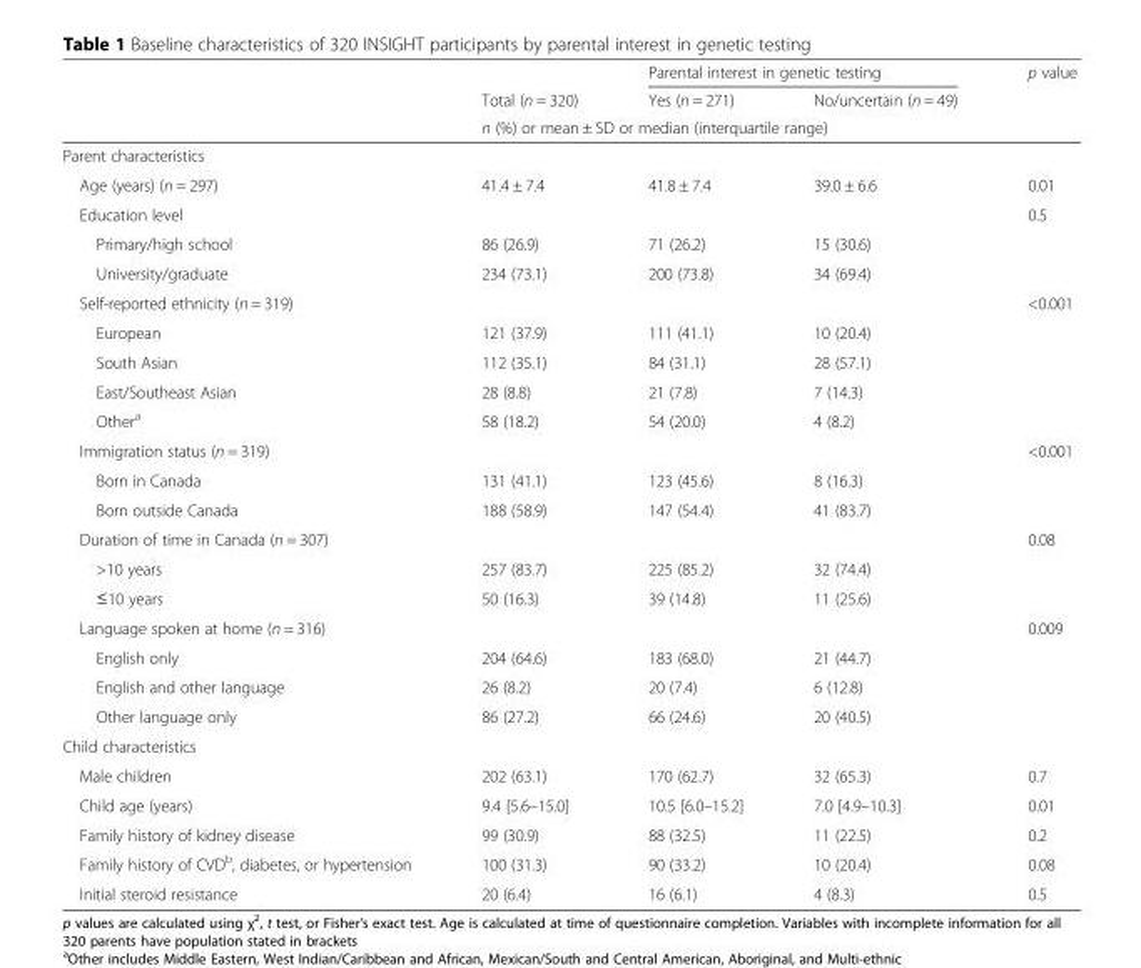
<table><thead><tr><td rowspan="3"></td><td rowspan="2">Total (n = 320)</td><td colspan="2">Parental interest in genetic testing</td><td rowspan="3">p value</td></tr><tr><td>Yes (n = 271)</td><td>No/uncertain (n = 49)</td></tr><tr><td colspan="3">n (%) or mean ± SD or median (interquartile range)</td></tr></thead><tbody><tr><td colspan="5">Parent characteristics</td></tr><tr><td>Age (years) (n = 297)</td><td>41.4 ± 7.4</td><td>41.8 ± 7.4</td><td>39.0 ± 6.6</td><td>0.01</td></tr><tr><td colspan="4">Education level</td><td>0.5</td></tr><tr><td>Primary/high school</td><td>86 (26.9)</td><td>71 (26.2)</td><td>15 (30.6)</td><td></td></tr><tr><td>University/graduate</td><td>234 (73.1)</td><td>200 (73.8)</td><td>34 (69.4)</td><td></td></tr><tr><td colspan="4">Self-reported ethnicity (n = 319)</td><td>&lt;0.001</td></tr><tr><td>European</td><td>121 (37.9)</td><td>111 (41.1)</td><td>10 (20.4)</td><td></td></tr><tr><td>South Asian</td><td>112 (35.1)</td><td>84 (31.1)</td><td>28 (57.1)</td><td></td></tr><tr><td>East/Southeast Asian</td><td>28 (8.8)</td><td>21 (7.8)</td><td>7 (14.3)</td><td></td></tr><tr><td>Other<sup>a</sup></td><td>58 (18.2)</td><td>54 (20.0)</td><td>4 (8.2)</td><td></td></tr><tr><td colspan="4">Immigration status (n = 319)</td><td>&lt;0.001</td></tr><tr><td>Born in Canada</td><td>131 (41.1)</td><td>123 (45.6)</td><td>8 (16.3)</td><td></td></tr><tr><td>Born outside Canada</td><td>188 (58.9)</td><td>147 (54.4)</td><td>41 (83.7)</td><td></td></tr><tr><td colspan="4">Duration of time in Canada (n = 307)</td><td>0.08</td></tr><tr><td>&gt;10 years</td><td>257 (83.7)</td><td>225 (85.2)</td><td>32 (74.4)</td><td></td></tr><tr><td>≤10 years</td><td>50 (16.3)</td><td>39 (14.8)</td><td>11 (25.6)</td><td></td></tr><tr><td colspan="4">Language spoken at home (n = 316)</td><td>0.009</td></tr><tr><td>English only</td><td>204 (64.6)</td><td>183 (68.0)</td><td>21 (44.7)</td><td></td></tr><tr><td>English and other language</td><td>26 (8.2)</td><td>20 (7.4)</td><td>6 (12.8)</td><td></td></tr><tr><td>Other language only</td><td>86 (27.2)</td><td>66 (24.6)</td><td>20 (40.5)</td><td></td></tr><tr><td colspan="5">Child characteristics</td></tr><tr><td>Male children</td><td>202 (63.1)</td><td>170 (62.7)</td><td>32 (65.3)</td><td>0.7</td></tr><tr><td>Child age (years)</td><td>9.4 [5.6–15.0]</td><td>10.5 [6.0–15.2]</td><td>7.0 [4.9–10.3]</td><td>0.01</td></tr><tr><td>Family history of kidney disease</td><td>99 (30.9)</td><td>88 (32.5)</td><td>11 (22.5)</td><td>0.2</td></tr><tr><td>Family history of CVD<sup>b</sup>, diabetes, or hypertension</td><td>100 (31.3)</td><td>90 (33.2)</td><td>10 (20.4)</td><td>0.08</td></tr><tr><td>Initial steroid resistance</td><td>20 (6.4)</td><td>16 (6.1)</td><td>4 (8.3)</td><td>0.5</td></tr></tbody></table>